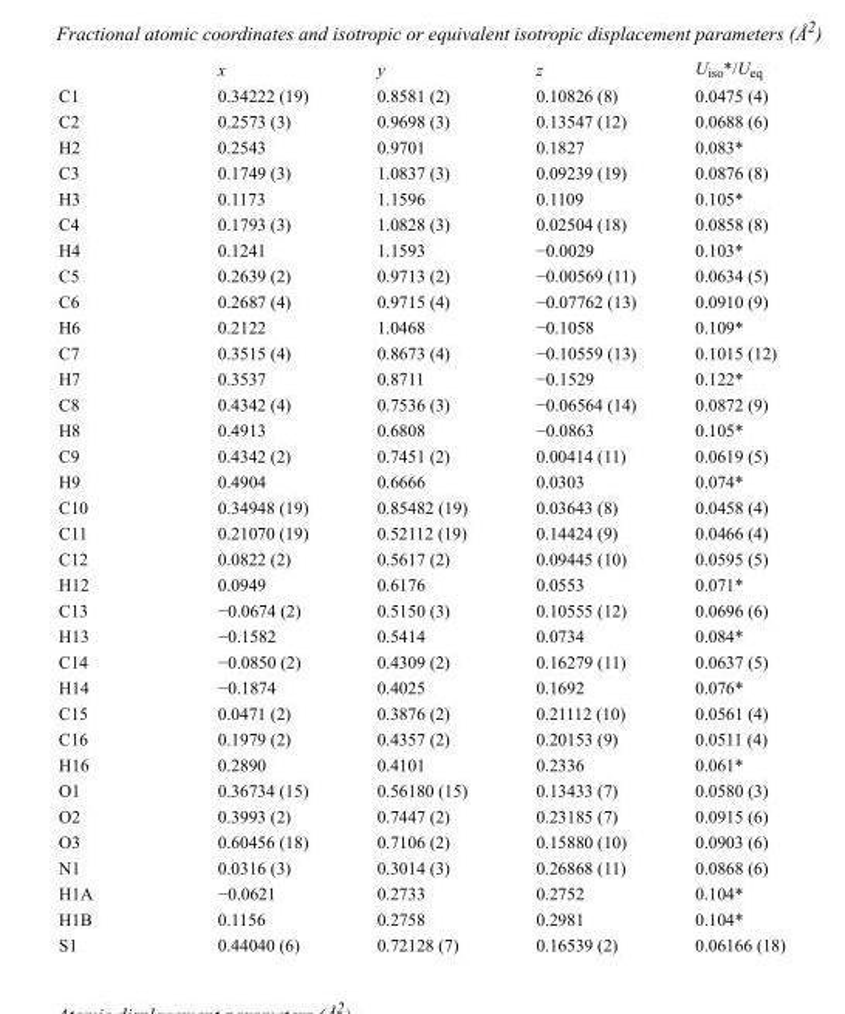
<table><thead><tr><td></td><td>x</td><td>y</td><td>z</td><td>U<sub>iso</sub>*/U<sub>eq</sub></td></tr></thead><tbody><tr><td>C1</td><td>0.34222 (19)</td><td>0.8581 (2)</td><td>0.10826 (8)</td><td>0.0475 (4)</td></tr><tr><td>C2</td><td>0.2573 (3)</td><td>0.9698 (3)</td><td>0.13547 (12)</td><td>0.0688 (6)</td></tr><tr><td>H2</td><td>0.2543</td><td>0.9701</td><td>0.1827</td><td>0.083*</td></tr><tr><td>C3</td><td>0.1749 (3)</td><td>1.0837 (3)</td><td>0.09239 (19)</td><td>0.0876 (8)</td></tr><tr><td>H3</td><td>0.1173</td><td>1.1596</td><td>0.1109</td><td>0.105*</td></tr><tr><td>C4</td><td>0.1793 (3)</td><td>1.0828 (3)</td><td>0.02504 (18)</td><td>0.0858 (8)</td></tr><tr><td>H4</td><td>0.1241</td><td>1.1593</td><td>−0.0029</td><td>0.103*</td></tr><tr><td>C5</td><td>0.2639 (2)</td><td>0.9713 (2)</td><td>−0.00569 (11)</td><td>0.0634 (5)</td></tr><tr><td>C6</td><td>0.2687 (4)</td><td>0.9715 (4)</td><td>−0.07762 (13)</td><td>0.0910 (9)</td></tr><tr><td>H6</td><td>0.2122</td><td>1.0468</td><td>−0.1058</td><td>0.109*</td></tr><tr><td>C7</td><td>0.3515 (4)</td><td>0.8673 (4)</td><td>−0.10559 (13)</td><td>0.1015 (12)</td></tr><tr><td>H7</td><td>0.3537</td><td>0.8711</td><td>−0.1529</td><td>0.122*</td></tr><tr><td>C8</td><td>0.4342 (4)</td><td>0.7536 (3)</td><td>−0.06564 (14)</td><td>0.0872 (9)</td></tr><tr><td>H8</td><td>0.4913</td><td>0.6808</td><td>−0.0863</td><td>0.105*</td></tr><tr><td>C9</td><td>0.4342 (2)</td><td>0.7451 (2)</td><td>0.00414 (11)</td><td>0.0619 (5)</td></tr><tr><td>H9</td><td>0.4904</td><td>0.6666</td><td>0.0303</td><td>0.074*</td></tr><tr><td>C10</td><td>0.34948 (19)</td><td>0.85482 (19)</td><td>0.03643 (8)</td><td>0.0458 (4)</td></tr><tr><td>C11</td><td>0.21070 (19)</td><td>0.52112 (19)</td><td>0.14424 (9)</td><td>0.0466 (4)</td></tr><tr><td>C12</td><td>0.0822 (2)</td><td>0.5617 (2)</td><td>0.09445 (10)</td><td>0.0595 (5)</td></tr><tr><td>H12</td><td>0.0949</td><td>0.6176</td><td>0.0553</td><td>0.071*</td></tr><tr><td>C13</td><td>−0.0674 (2)</td><td>0.5150 (3)</td><td>0.10555 (12)</td><td>0.0696 (6)</td></tr><tr><td>H13</td><td>−0.1582</td><td>0.5414</td><td>0.0734</td><td>0.084*</td></tr><tr><td>C14</td><td>−0.0850 (2)</td><td>0.4309 (2)</td><td>0.16279 (11)</td><td>0.0637 (5)</td></tr><tr><td>H14</td><td>−0.1874</td><td>0.4025</td><td>0.1692</td><td>0.076*</td></tr><tr><td>C15</td><td>0.0471 (2)</td><td>0.3876 (2)</td><td>0.21112 (10)</td><td>0.0561 (4)</td></tr><tr><td>C16</td><td>0.1979 (2)</td><td>0.4357 (2)</td><td>0.20153 (9)</td><td>0.0511 (4)</td></tr><tr><td>H16</td><td>0.2890</td><td>0.4101</td><td>0.2336</td><td>0.061*</td></tr><tr><td>O1</td><td>0.36734 (15)</td><td>0.56180 (15)</td><td>0.13433 (7)</td><td>0.0580 (3)</td></tr><tr><td>O2</td><td>0.3993 (2)</td><td>0.7447 (2)</td><td>0.23185 (7)</td><td>0.0915 (6)</td></tr><tr><td>O3</td><td>0.60456 (18)</td><td>0.7106 (2)</td><td>0.15880 (10)</td><td>0.0903 (6)</td></tr><tr><td>N1</td><td>0.0316 (3)</td><td>0.3014 (3)</td><td>0.26868 (11)</td><td>0.0868 (6)</td></tr><tr><td>H1A</td><td>−0.0621</td><td>0.2733</td><td>0.2752</td><td>0.104*</td></tr><tr><td>H1B</td><td>0.1156</td><td>0.2758</td><td>0.2981</td><td>0.104*</td></tr><tr><td>S1</td><td>0.44040 (6)</td><td>0.72128 (7)</td><td>0.16539 (2)</td><td>0.06166 (18)</td></tr></tbody></table>